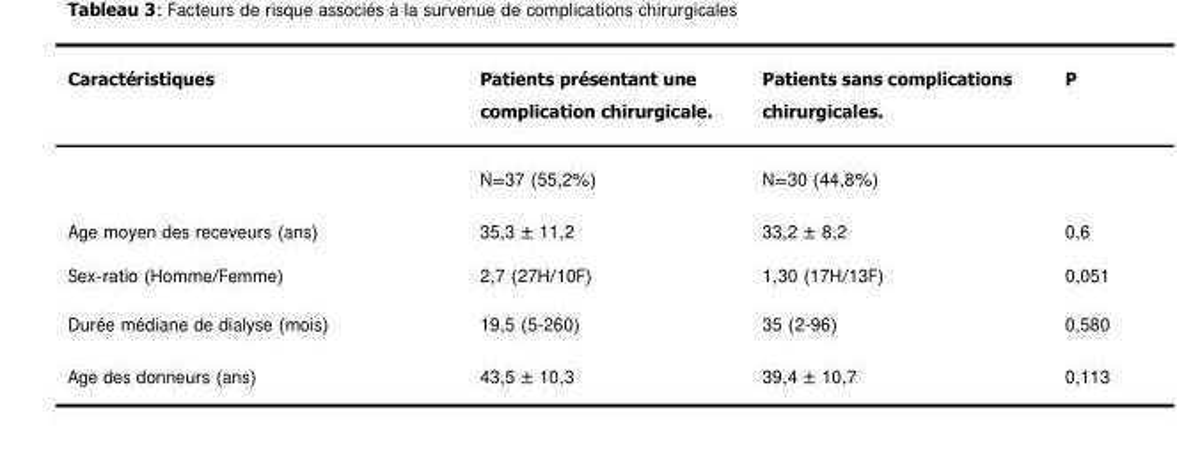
<table><thead><tr><td rowspan="6">Caractéristiques Age moyen des receveurs (ans) Sex-ratio (Homme/Femme) Durée médiane de dialyse (mois) Age des donneurs (ans)</td><td rowspan="6">Patients présentant une complication chirurgicale. N=37 (55,2%) 35,3 ± 11,2 2,7 (27H/10F) 19,5 (5-260) 43,5 ± 10,3</td><td rowspan="6">Patients sans complications chirurgicales. N=30 (44,8%) 33,2 ± 8,2 1,30 (17H/13F) 35 (2-96) 39,4 ± 10,7</td><td rowspan="6">P 0,6 0,051 0,580 0,113</td></tr><tr></tr><tr></tr><tr></tr><tr></tr><tr></tr></thead><tbody></tbody></table>